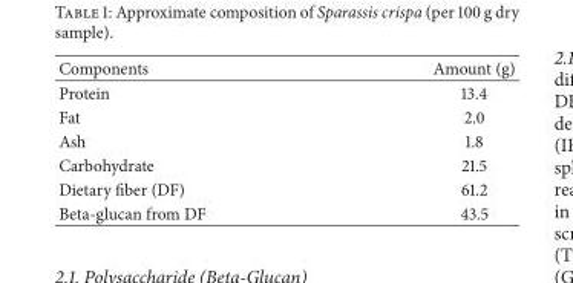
<table><thead><tr><td>Components</td><td>Amount (g)</td></tr></thead><tbody><tr><td>Protein</td><td>13.4</td></tr><tr><td>Fat</td><td>2.0</td></tr><tr><td>Ash</td><td>1.8</td></tr><tr><td>Carbohydrate</td><td>21.5</td></tr><tr><td>Dietary fiber (DF)</td><td>61.2</td></tr><tr><td>Beta-glucan from DF</td><td>43.5</td></tr></tbody></table>